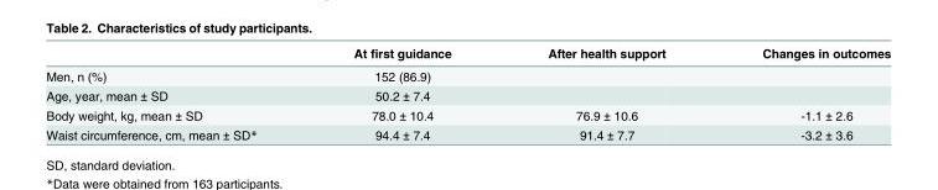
<table><thead><tr><td></td><td>At first guidance</td><td>After health support</td><td>Changes in outcomes</td></tr></thead><tbody><tr><td>Men, n (%)</td><td>152 (86.9)</td><td></td><td></td></tr><tr><td>Age, year, mean ± SD</td><td>50.2 ± 7.4</td><td></td><td></td></tr><tr><td>Body weight, kg, mean ± SD</td><td>78.0 ± 10.4</td><td>76.9 ± 10.6</td><td>-1.1 ± 2.6</td></tr><tr><td>Waist circumference, cm, mean ± SD*</td><td>94.4 ± 7.4</td><td>91.4 ± 7.7</td><td>-3.2 ± 3.6</td></tr></tbody></table>